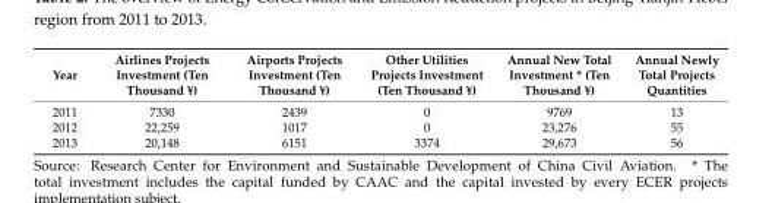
<table><thead><tr><td>Year</td><td>Airlines Projects Investment (Ten Thousand ¥)</td><td>Airports Projects Investment (Ten Thousand ¥)</td><td>Other Utilities Projects Investment (Ten Thousand ¥)</td><td>Annual New Total Investment * (Ten Thousand ¥)</td><td>Annual Newly Total Projects Quantities</td></tr></thead><tbody><tr><td>2011</td><td>7330</td><td>2439</td><td>0</td><td>9769</td><td>13</td></tr><tr><td>2012</td><td>22,259</td><td>1017</td><td>0</td><td>23,276</td><td>55</td></tr><tr><td>2013</td><td>20,148</td><td>6151</td><td>3374</td><td>29,673</td><td>56</td></tr></tbody></table>